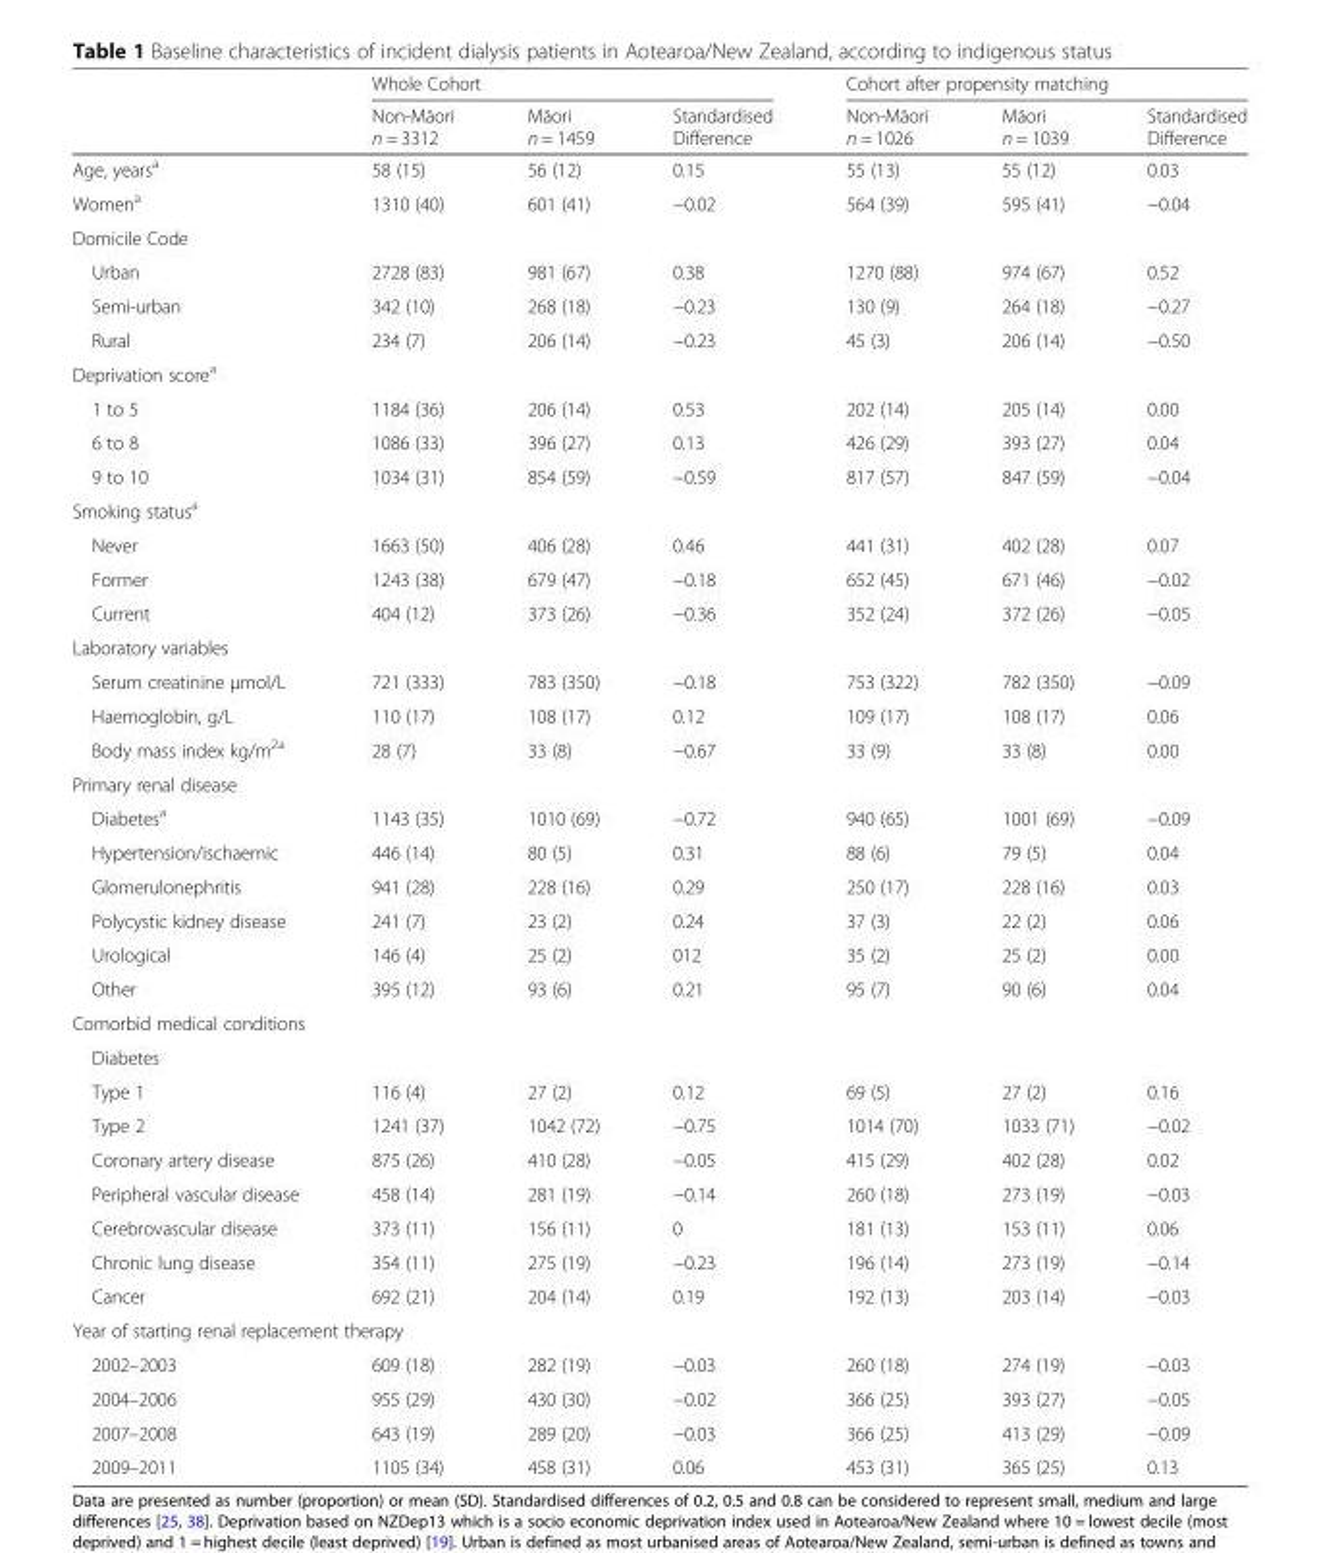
<table><thead><tr><td rowspan="2"></td><td colspan="3">Whole Cohort</td><td colspan="3">Cohort after propensity matching</td></tr><tr><td>Non-Māori n = 3312</td><td>Māori n = 1459</td><td>Standardised Difference</td><td>Non-Māori n = 1026</td><td>Māori n = 1039</td><td>Standardised Difference</td></tr></thead><tbody><tr><td>Age, years<sup>a</sup></td><td>58 (15)</td><td>56 (12)</td><td>0.15</td><td>55 (13)</td><td>55 (12)</td><td>0.03</td></tr><tr><td>Women<sup>a</sup></td><td>1310 (40)</td><td>601 (41)</td><td>−0.02</td><td>564 (39)</td><td>595 (41)</td><td>−0.04</td></tr><tr><td colspan="7">Domicile Code</td></tr><tr><td>Urban</td><td>2728 (83)</td><td>981 (67)</td><td>0.38</td><td>1270 (88)</td><td>974 (67)</td><td>0.52</td></tr><tr><td>Semi-urban</td><td>342 (10)</td><td>268 (18)</td><td>−0.23</td><td>130 (9)</td><td>264 (18)</td><td>−0.27</td></tr><tr><td>Rural</td><td>234 (7)</td><td>206 (14)</td><td>−0.23</td><td>45 (3)</td><td>206 (14)</td><td>−0.50</td></tr><tr><td colspan="7">Deprivation score<sup>a</sup></td></tr><tr><td>1 to 5</td><td>1184 (36)</td><td>206 (14)</td><td>0.53</td><td>202 (14)</td><td>205 (14)</td><td>0.00</td></tr><tr><td>6 to 8</td><td>1086 (33)</td><td>396 (27)</td><td>0.13</td><td>426 (29)</td><td>393 (27)</td><td>0.04</td></tr><tr><td>9 to 10</td><td>1034 (31)</td><td>854 (59)</td><td>−0.59</td><td>817 (57)</td><td>847 (59)</td><td>−0.04</td></tr><tr><td colspan="7">Smoking status<sup>a</sup></td></tr><tr><td>Never</td><td>1663 (50)</td><td>406 (28)</td><td>0.46</td><td>441 (31)</td><td>402 (28)</td><td>0.07</td></tr><tr><td>Former</td><td>1243 (38)</td><td>679 (47)</td><td>−0.18</td><td>652 (45)</td><td>671 (46)</td><td>−0.02</td></tr><tr><td>Current</td><td>404 (12)</td><td>373 (26)</td><td>−0.36</td><td>352 (24)</td><td>372 (26)</td><td>−0.05</td></tr><tr><td colspan="7">Laboratory variables</td></tr><tr><td>Serum creatinine μmol/L</td><td>721 (333)</td><td>783 (350)</td><td>−0.18</td><td>753 (322)</td><td>782 (350)</td><td>−0.09</td></tr><tr><td>Haemoglobin, g/L</td><td>110 (17)</td><td>108 (17)</td><td>0.12</td><td>109 (17)</td><td>108 (17)</td><td>0.06</td></tr><tr><td>Body mass index kg/m<sup>2a</sup></td><td>28 (7)</td><td>33 (8)</td><td>−0.67</td><td>33 (9)</td><td>33 (8)</td><td>0.00</td></tr><tr><td colspan="7">Primary renal disease</td></tr><tr><td>Diabetes<sup>a</sup></td><td>1143 (35)</td><td>1010 (69)</td><td>−0.72</td><td>940 (65)</td><td>1001 (69)</td><td>−0.09</td></tr><tr><td>Hypertension/ischaemic</td><td>446 (14)</td><td>80 (5)</td><td>0.31</td><td>88 (6)</td><td>79 (5)</td><td>0.04</td></tr><tr><td>Glomerulonephritis</td><td>941 (28)</td><td>228 (16)</td><td>0.29</td><td>250 (17)</td><td>228 (16)</td><td>0.03</td></tr><tr><td>Polycystic kidney disease</td><td>241 (7)</td><td>23 (2)</td><td>0.24</td><td>37 (3)</td><td>22 (2)</td><td>0.06</td></tr><tr><td>Urological</td><td>146 (4)</td><td>25 (2)</td><td>012</td><td>35 (2)</td><td>25 (2)</td><td>0.00</td></tr><tr><td>Other</td><td>395 (12)</td><td>93 (6)</td><td>0.21</td><td>95 (7)</td><td>90 (6)</td><td>0.04</td></tr><tr><td colspan="7">Comorbid medical conditions</td></tr><tr><td colspan="7">Diabetes</td></tr><tr><td>Type 1</td><td>116 (4)</td><td>27 (2)</td><td>0.12</td><td>69 (5)</td><td>27 (2)</td><td>0.16</td></tr><tr><td>Type 2</td><td>1241 (37)</td><td>1042 (72)</td><td>−0.75</td><td>1014 (70)</td><td>1033 (71)</td><td>−0.02</td></tr><tr><td>Coronary artery disease</td><td>875 (26)</td><td>410 (28)</td><td>−0.05</td><td>415 (29)</td><td>402 (28)</td><td>0.02</td></tr><tr><td>Peripheral vascular disease</td><td>458 (14)</td><td>281 (19)</td><td>−0.14</td><td>260 (18)</td><td>273 (19)</td><td>−0.03</td></tr><tr><td>Cerebrovascular disease</td><td>373 (11)</td><td>156 (11)</td><td>0</td><td>181 (13)</td><td>153 (11)</td><td>0.06</td></tr><tr><td>Chronic lung disease</td><td>354 (11)</td><td>275 (19)</td><td>−0.23</td><td>196 (14)</td><td>273 (19)</td><td>−0.14</td></tr><tr><td>Cancer</td><td>692 (21)</td><td>204 (14)</td><td>0.19</td><td>192 (13)</td><td>203 (14)</td><td>−0.03</td></tr><tr><td colspan="7">Year of starting renal replacement therapy</td></tr><tr><td>2002–2003</td><td>609 (18)</td><td>282 (19)</td><td>−0.03</td><td>260 (18)</td><td>274 (19)</td><td>−0.03</td></tr><tr><td>2004–2006</td><td>955 (29)</td><td>430 (30)</td><td>−0.02</td><td>366 (25)</td><td>393 (27)</td><td>−0.05</td></tr><tr><td>2007–2008</td><td>643 (19)</td><td>289 (20)</td><td>−0.03</td><td>366 (25)</td><td>413 (29)</td><td>−0.09</td></tr><tr><td>2009–2011</td><td>1105 (34)</td><td>458 (31)</td><td>0.06</td><td>453 (31)</td><td>365 (25)</td><td>0.13</td></tr></tbody></table>